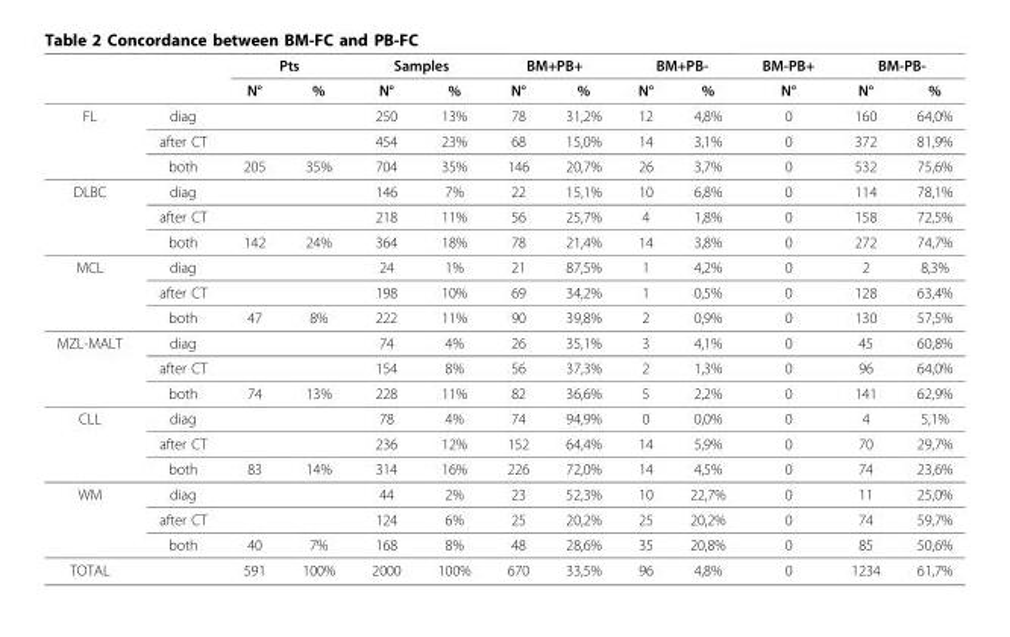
<table><thead><tr><td rowspan="2"></td><td rowspan="2"></td><td colspan="2">Pts</td><td colspan="2">Samples</td><td colspan="2">BM+PB+</td><td colspan="2">BM+PB-</td><td rowspan="2">BM-PB+ N°</td><td colspan="2">BM-PB-</td></tr><tr><td>N°</td><td>%</td><td>N°</td><td>%</td><td>N°</td><td>%</td><td>N°</td><td>%</td><td>N°</td><td>%</td></tr></thead><tbody><tr><td rowspan="3">FL</td><td>diag</td><td></td><td></td><td>250</td><td>13%</td><td>78</td><td>31,2%</td><td>12</td><td>4,8%</td><td>0</td><td>160</td><td>64,0%</td></tr><tr><td>after CT</td><td></td><td></td><td>454</td><td>23%</td><td>68</td><td>15,0%</td><td>14</td><td>3,1%</td><td>0</td><td>372</td><td>81,9%</td></tr><tr><td>both</td><td>205</td><td>35%</td><td>704</td><td>35%</td><td>146</td><td>20,7%</td><td>26</td><td>3,7%</td><td>0</td><td>532</td><td>75,6%</td></tr><tr><td rowspan="3">DLBC</td><td>diag</td><td></td><td></td><td>146</td><td>7%</td><td>22</td><td>15,1%</td><td>10</td><td>6,8%</td><td>0</td><td>114</td><td>78,1%</td></tr><tr><td>after CT</td><td></td><td></td><td>218</td><td>11%</td><td>56</td><td>25,7%</td><td>4</td><td>1,8%</td><td>0</td><td>158</td><td>72,5%</td></tr><tr><td>both</td><td>142</td><td>24%</td><td>364</td><td>18%</td><td>78</td><td>21,4%</td><td>14</td><td>3,8%</td><td>0</td><td>272</td><td>74,7%</td></tr><tr><td rowspan="3">MCL</td><td>diag</td><td></td><td></td><td>24</td><td>1%</td><td>21</td><td>87,5%</td><td>1</td><td>4,2%</td><td>0</td><td>2</td><td>8,3%</td></tr><tr><td>after CT</td><td></td><td></td><td>198</td><td>10%</td><td>69</td><td>34,2%</td><td>1</td><td>0,5%</td><td>0</td><td>128</td><td>63,4%</td></tr><tr><td>both</td><td>47</td><td>8%</td><td>222</td><td>11%</td><td>90</td><td>39,8%</td><td>2</td><td>0,9%</td><td>0</td><td>130</td><td>57,5%</td></tr><tr><td rowspan="3">MZL-MALT</td><td>diag</td><td></td><td></td><td>74</td><td>4%</td><td>26</td><td>35,1%</td><td>3</td><td>4,1%</td><td>0</td><td>45</td><td>60,8%</td></tr><tr><td>after CT</td><td></td><td></td><td>154</td><td>8%</td><td>56</td><td>37,3%</td><td>2</td><td>1,3%</td><td>0</td><td>96</td><td>64,0%</td></tr><tr><td>both</td><td>74</td><td>13%</td><td>228</td><td>11%</td><td>82</td><td>36,6%</td><td>5</td><td>2,2%</td><td>0</td><td>141</td><td>62,9%</td></tr><tr><td rowspan="3">CLL</td><td>diag</td><td></td><td></td><td>78</td><td>4%</td><td>74</td><td>94,9%</td><td>0</td><td>0,0%</td><td>0</td><td>4</td><td>5,1%</td></tr><tr><td>after CT</td><td></td><td></td><td>236</td><td>12%</td><td>152</td><td>64,4%</td><td>14</td><td>5,9%</td><td>0</td><td>70</td><td>29,7%</td></tr><tr><td>both</td><td>83</td><td>14%</td><td>314</td><td>16%</td><td>226</td><td>72,0%</td><td>14</td><td>4,5%</td><td>0</td><td>74</td><td>23,6%</td></tr><tr><td rowspan="3">WM</td><td>diag</td><td></td><td></td><td>44</td><td>2%</td><td>23</td><td>52,3%</td><td>10</td><td>22,7%</td><td>0</td><td>11</td><td>25,0%</td></tr><tr><td>after CT</td><td></td><td></td><td>124</td><td>6%</td><td>25</td><td>20,2%</td><td>25</td><td>20,2%</td><td>0</td><td>74</td><td>59,7%</td></tr><tr><td>both</td><td>40</td><td>7%</td><td>168</td><td>8%</td><td>48</td><td>28,6%</td><td>35</td><td>20,8%</td><td>0</td><td>85</td><td>50,6%</td></tr><tr><td>TOTAL</td><td></td><td>591</td><td>100%</td><td>2000</td><td>100%</td><td>670</td><td>33,5%</td><td>96</td><td>4,8%</td><td>0</td><td>1234</td><td>61,7%</td></tr></tbody></table>